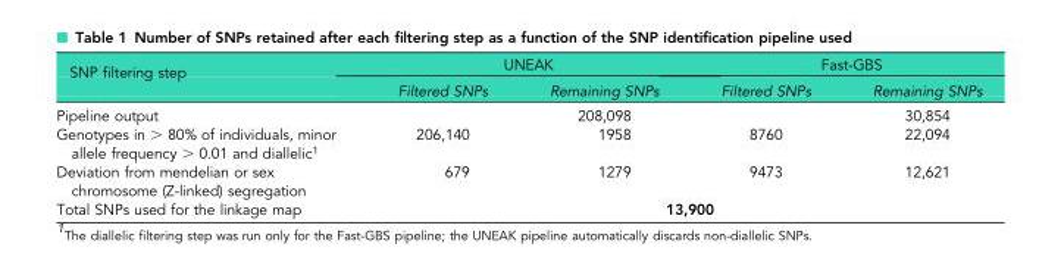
<table><thead><tr><td rowspan="2">SNP filtering step</td><td colspan="2">UNEAK</td><td colspan="2">Fast-GBS</td></tr><tr><td>Filtered SNPs</td><td>Remaining SNPs</td><td>Filtered SNPs</td><td>Remaining SNPs</td></tr></thead><tbody><tr><td>Pipeline output</td><td></td><td>208,098</td><td></td><td>30,854</td></tr><tr><td>Genotypes in &gt; 80% of individuals, minor allele frequency &gt; 0.01 and diallelic<sup>1</sup></td><td>206,140</td><td>1958</td><td>8760</td><td>22,094</td></tr><tr><td>Deviation from mendelian or sex chromosome (Z-linked) segregation</td><td>679</td><td>1279</td><td>9473</td><td>12,621</td></tr><tr><td>Total SNPs used for the linkage map</td><td colspan="4">13,900</td></tr></tbody></table>